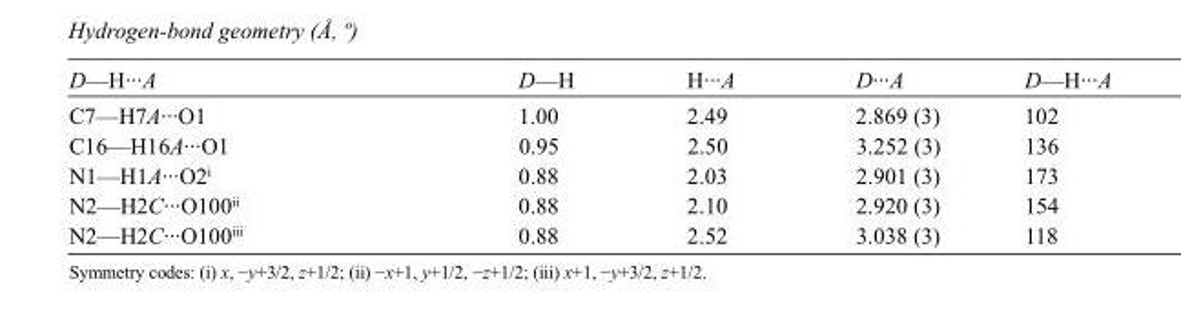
<table><tbody><tr><td>D—H···A</td><td>D—H</td><td>H···A</td><td>D···A</td><td>D—H···A</td></tr><tr><td>C7—H7A···O1</td><td>1.00</td><td>2.49</td><td>2.869 (3)</td><td>102</td></tr><tr><td>C16—H16A···O1</td><td>0.95</td><td>2.50</td><td>3.252 (3)</td><td>136</td></tr><tr><td>N1—H1A···O2<sup>i</sup></td><td>0.88</td><td>2.03</td><td>2.901 (3)</td><td>173</td></tr><tr><td>N2—H2C···O100<sup>ii</sup></td><td>0.88</td><td>2.10</td><td>2.920 (3)</td><td>154</td></tr><tr><td>N2—H2C···O100<sup>iii</sup></td><td>0.88</td><td>2.52</td><td>3.038 (3)</td><td>118</td></tr></tbody></table>